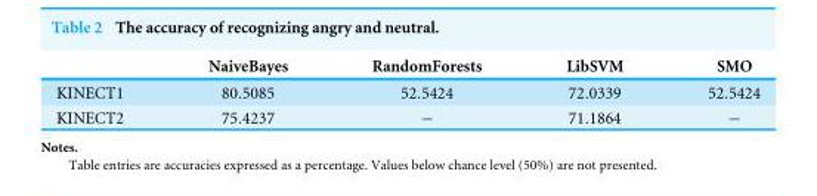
<table><thead><tr><td></td><td>NaiveBayes</td><td>RandomForests</td><td>LibSVM</td><td>SMO</td></tr></thead><tbody><tr><td>KINECT1</td><td>80.5085</td><td>52.5424</td><td>72.0339</td><td>52.5424</td></tr><tr><td>KINECT2</td><td>75.4237</td><td>−</td><td>71.1864</td><td>−</td></tr></tbody></table>